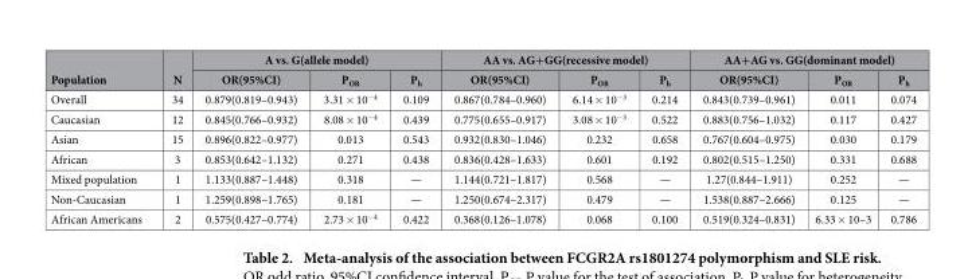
<table><thead><tr><td rowspan="2">Population</td><td rowspan="2">N</td><td colspan="3">A vs. G(allele model)</td><td colspan="3">AA vs. AG+GG(recessive model)</td><td colspan="3">AA+AG vs. GG(dominant model)</td></tr><tr><td>OR(95%CI)</td><td>P<sub>OR</sub></td><td>P<sub>h</sub></td><td>OR(95%CI)</td><td>P<sub>OR</sub></td><td>P<sub>h</sub></td><td>OR(95%CI)</td><td>P<sub>OR</sub></td><td>P<sub>h</sub></td></tr></thead><tbody><tr><td>Overall</td><td>34</td><td>0.879(0.819–0.943)</td><td>3.31 × 10<sup>−4</sup></td><td>0.109</td><td>0.867(0.784–0.960)</td><td>6.14 × 10<sup>−3</sup></td><td>0.214</td><td>0.843(0.739–0.961)</td><td>0.011</td><td>0.074</td></tr><tr><td>Caucasian</td><td>12</td><td>0.845(0.766–0.932)</td><td>8.08 × 10<sup>−4</sup></td><td>0.439</td><td>0.775(0.655–0.917)</td><td>3.08 × 10<sup>−3</sup></td><td>0.522</td><td>0.883(0.756–1.032)</td><td>0.117</td><td>0.427</td></tr><tr><td>Asian</td><td>15</td><td>0.896(0.822–0.977)</td><td>0.013</td><td>0.543</td><td>0.932(0.830–1.046)</td><td>0.232</td><td>0.658</td><td>0.767(0.604–0.975)</td><td>0.030</td><td>0.179</td></tr><tr><td>African</td><td>3</td><td>0.853(0.642–1.132)</td><td>0.271</td><td>0.438</td><td>0.836(0.428–1.633)</td><td>0.601</td><td>0.192</td><td>0.802(0.515–1.250)</td><td>0.331</td><td>0.688</td></tr><tr><td>Mixed population</td><td>1</td><td>1.133(0.887–1.448)</td><td>0.318</td><td>—</td><td>1.144(0.721–1.817)</td><td>0.568</td><td>—</td><td>1.27(0.844–1.911)</td><td>0.252</td><td>—</td></tr><tr><td>Non-Caucasian</td><td>1</td><td>1.259(0.898–1.765)</td><td>0.181</td><td>—</td><td>1.250(0.674–2.317)</td><td>0.479</td><td>—</td><td>1.538(0.887–2.666)</td><td>0.125</td><td>—</td></tr><tr><td>African Americans</td><td>2</td><td>0.575(0.427–0.774)</td><td>2.73 × 10<sup>−4</sup></td><td>0.422</td><td>0.368(0.126–1.078)</td><td>0.068</td><td>0.100</td><td>0.519(0.324–0.831)</td><td>6.33 × 10–3</td><td>0.786</td></tr></tbody></table>